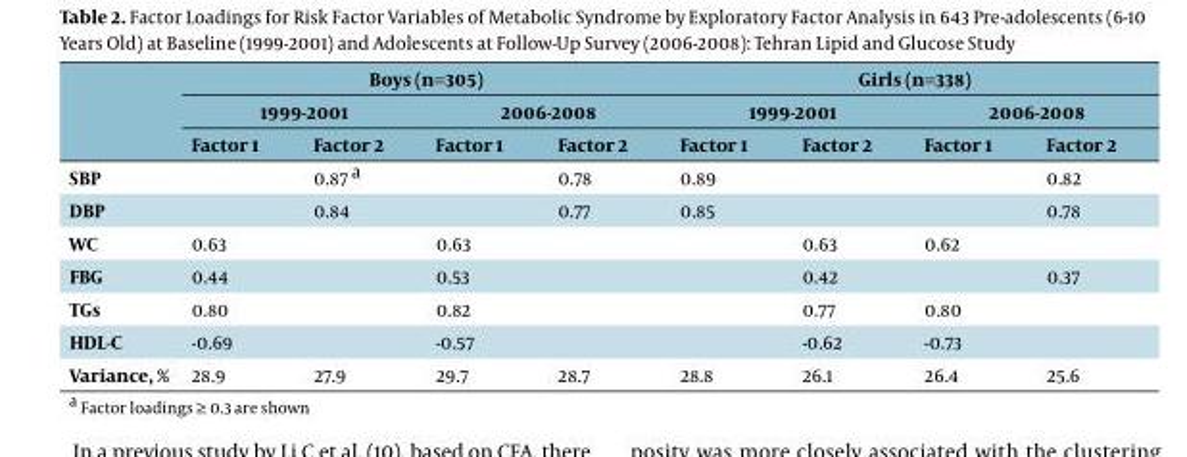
<table><thead><tr><td rowspan="3"></td><td colspan="4">Boys (n=305)</td><td colspan="4">Girls (n=338)</td></tr><tr><td colspan="2">1999-2001</td><td colspan="2">2006-2008</td><td colspan="2">1999-2001</td><td colspan="2">2006-2008</td></tr><tr><td>Factor 1</td><td>Factor 2</td><td>Factor 1</td><td>Factor 2</td><td>Factor 1</td><td>Factor 2</td><td>Factor 1</td><td>Factor 2</td></tr></thead><tbody><tr><td>SBP</td><td></td><td>0.87 a</td><td></td><td>0.78</td><td>0.89</td><td></td><td></td><td>0.82</td></tr><tr><td>DBP</td><td></td><td>0.84</td><td></td><td>0.77</td><td>0.85</td><td></td><td></td><td>0.78</td></tr><tr><td>WC</td><td>0.63</td><td></td><td>0.63</td><td></td><td></td><td>0.63</td><td>0.62</td><td></td></tr><tr><td>FBG</td><td>0.44</td><td></td><td>0.53</td><td></td><td></td><td>0.42</td><td></td><td>0.37</td></tr><tr><td>TGs</td><td>0.80</td><td></td><td>0.82</td><td></td><td></td><td>0.77</td><td>0.80</td><td></td></tr><tr><td>HDL-C</td><td>-0.69</td><td></td><td>-0.57</td><td></td><td></td><td>-0.62</td><td>-0.73</td><td></td></tr><tr><td>Variance, %</td><td>28.9</td><td>27.9</td><td>29.7</td><td>28.7</td><td>28.8</td><td>26.1</td><td>26.4</td><td>25.6</td></tr></tbody></table>